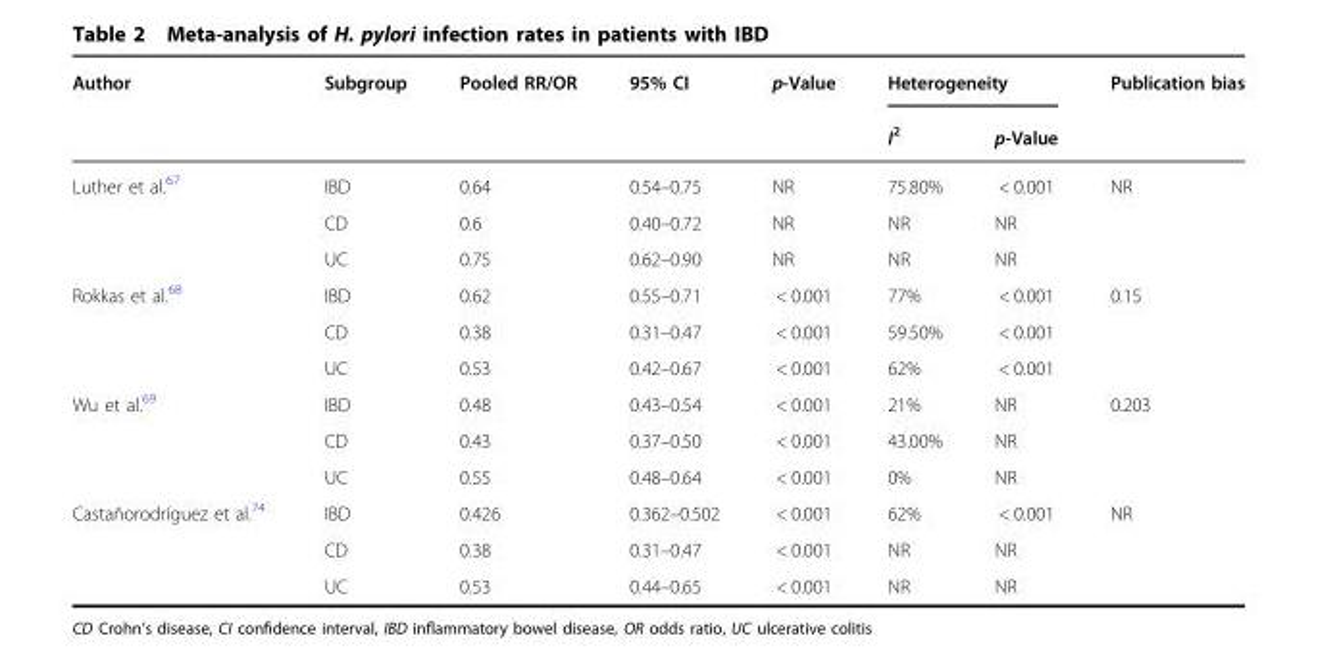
<table><thead><tr><td rowspan="2">Author</td><td rowspan="2">Subgroup</td><td rowspan="2">Pooled RR/OR</td><td rowspan="2">95% CI</td><td rowspan="2">p-Value</td><td colspan="2">Heterogeneity</td><td rowspan="2">Publication bias</td></tr><tr><td>I<sup>2</sup></td><td>p-Value</td></tr></thead><tbody><tr><td rowspan="3">Luther et al.<sup>67</sup></td><td>IBD</td><td>0.64</td><td>0.54–0.75</td><td>NR</td><td>75.80%</td><td>&lt; 0.001</td><td>NR</td></tr><tr><td>CD</td><td>0.6</td><td>0.40–0.72</td><td>NR</td><td>NR</td><td>NR</td><td></td></tr><tr><td>UC</td><td>0.75</td><td>0.62–0.90</td><td>NR</td><td>NR</td><td>NR</td><td></td></tr><tr><td rowspan="3">Rokkas et al.<sup>68</sup></td><td>IBD</td><td>0.62</td><td>0.55–0.71</td><td>&lt; 0.001</td><td>77%</td><td>&lt; 0.001</td><td>0.15</td></tr><tr><td>CD</td><td>0.38</td><td>0.31–0.47</td><td>&lt; 0.001</td><td>59.50%</td><td>&lt; 0.001</td><td></td></tr><tr><td>UC</td><td>0.53</td><td>0.42–0.67</td><td>&lt; 0.001</td><td>62%</td><td>&lt; 0.001</td><td></td></tr><tr><td rowspan="3">Wu et al.<sup>69</sup></td><td>IBD</td><td>0.48</td><td>0.43–0.54</td><td>&lt; 0.001</td><td>21%</td><td>NR</td><td>0.203</td></tr><tr><td>CD</td><td>0.43</td><td>0.37–0.50</td><td>&lt; 0.001</td><td>43.00%</td><td>NR</td><td></td></tr><tr><td>UC</td><td>0.55</td><td>0.48–0.64</td><td>&lt; 0.001</td><td>0%</td><td>NR</td><td></td></tr><tr><td rowspan="3">Castañorodríguez et al.<sup>74</sup></td><td>IBD</td><td>0.426</td><td>0.362–0.502</td><td>&lt; 0.001</td><td>62%</td><td>&lt; 0.001</td><td>NR</td></tr><tr><td>CD</td><td>0.38</td><td>0.31–0.47</td><td>&lt; 0.001</td><td>NR</td><td>NR</td><td></td></tr><tr><td>UC</td><td>0.53</td><td>0.44–0.65</td><td>&lt; 0.001</td><td>NR</td><td>NR</td><td></td></tr></tbody></table>